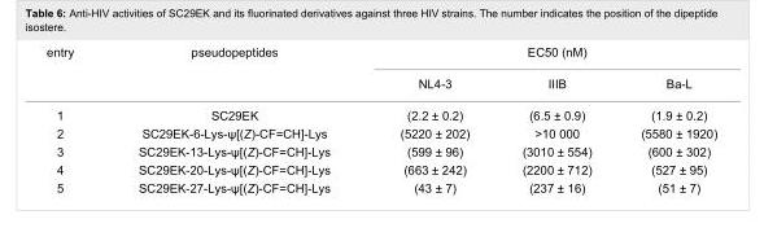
<table><tbody><tr><td rowspan="2">entry</td><td>pseudopeptides</td><td colspan="3">EC50 (nM)</td></tr><tr><td></td><td>NL4-3</td><td>IIIB</td><td>Ba-L</td></tr><tr><td>1</td><td>SC29EK</td><td>(2.2 ± 0.2)</td><td>(6.5 ± 0.9)</td><td>(1.9 ± 0.2)</td></tr><tr><td>2</td><td>SC29EK-6-Lys-ψ[(Z)-CF=CH]-Lys</td><td>(5220 ± 202)</td><td>&gt;10 000</td><td>(5580 ± 1920)</td></tr><tr><td>3</td><td>SC29EK-13-Lys-ψ[(Z)-CF=CH]-Lys</td><td>(599 ± 96)</td><td>(3010 ± 554)</td><td>(600 ± 302)</td></tr><tr><td>4</td><td>SC29EK-20-Lys-ψ[(Z)-CF=CH]-Lys</td><td>(663 ± 242)</td><td>(2200 ± 712)</td><td>(527 ± 95)</td></tr><tr><td>5</td><td>SC29EK-27-Lys-ψ[(Z)-CF=CH]-Lys</td><td>(43 ± 7)</td><td>(237 ± 16)</td><td>(51 ± 7)</td></tr></tbody></table>